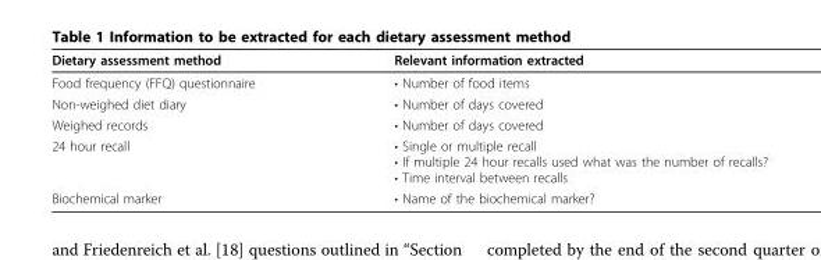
<table><thead><tr><td>Dietary assessment method</td><td>Relevant information extracted</td></tr></thead><tbody><tr><td>Food frequency (FFQ) questionnaire</td><td>• Number of food items</td></tr><tr><td>Non-weighed diet diary</td><td>• Number of days covered</td></tr><tr><td>Weighed records</td><td>• Number of days covered</td></tr><tr><td>24 hour recall</td><td>• Single or multiple recall • If multiple 24 hour recalls used what was the number of recalls? • Time interval between recalls</td></tr><tr><td>Biochemical marker</td><td>• Name of the biochemical marker?</td></tr></tbody></table>